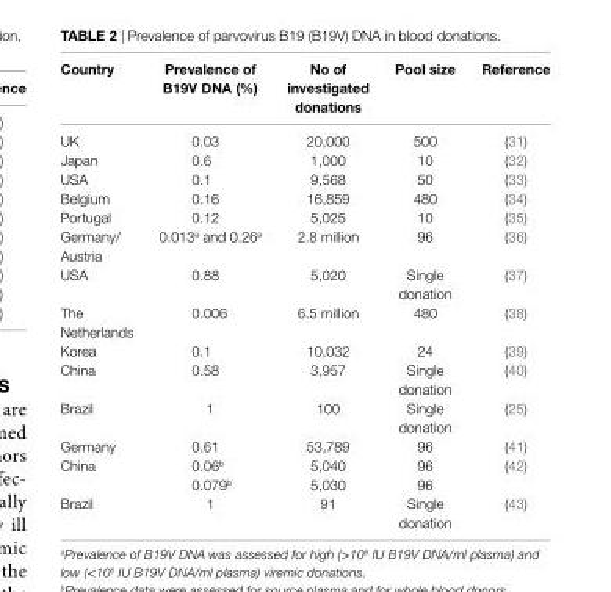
<table><thead><tr><td>Country</td><td>Prevalence of B19v DNa (%)</td><td>No of investigated donations</td><td>Pool size</td><td>Reference</td></tr></thead><tbody><tr><td>UK</td><td>0.03</td><td>20,000</td><td>500</td><td>(31)</td></tr><tr><td>Japan</td><td>0.6</td><td>1,000</td><td>10</td><td>(32)</td></tr><tr><td>USA</td><td>0.1</td><td>9,568</td><td>50</td><td>(33)</td></tr><tr><td>Belgium</td><td>0.16</td><td>16,859</td><td>480</td><td>(34)</td></tr><tr><td>Portugal</td><td>0.12</td><td>5,025</td><td>10</td><td>(35)</td></tr><tr><td>Germany/ Austria</td><td>0.013<sup>a</sup> and 0.26<sup>a</sup></td><td>2.8 million</td><td>96</td><td>(36)</td></tr><tr><td>USA</td><td>0.88</td><td>5,020</td><td>Single donation</td><td>(37)</td></tr><tr><td>The Netherlands</td><td>0.006</td><td>6.5 million</td><td>480</td><td>(38)</td></tr><tr><td>Korea</td><td>0.1</td><td>10,032</td><td>24</td><td>(39)</td></tr><tr><td>China</td><td>0.58</td><td>3,957</td><td>Single donation</td><td>(40)</td></tr><tr><td>Brazil</td><td>1</td><td>100</td><td>Single donation</td><td>(25)</td></tr><tr><td>Germany</td><td>0.61</td><td>53,789</td><td>96</td><td>(41)</td></tr><tr><td rowspan="2">China</td><td>0.06<sup>b</sup></td><td>5,040</td><td>96</td><td rowspan="2">(42)</td></tr><tr><td>0.079<sup>b</sup></td><td>5,030</td><td>96</td></tr><tr><td>Brazil</td><td>1</td><td>91</td><td>Single donation</td><td>(43)</td></tr></tbody></table>